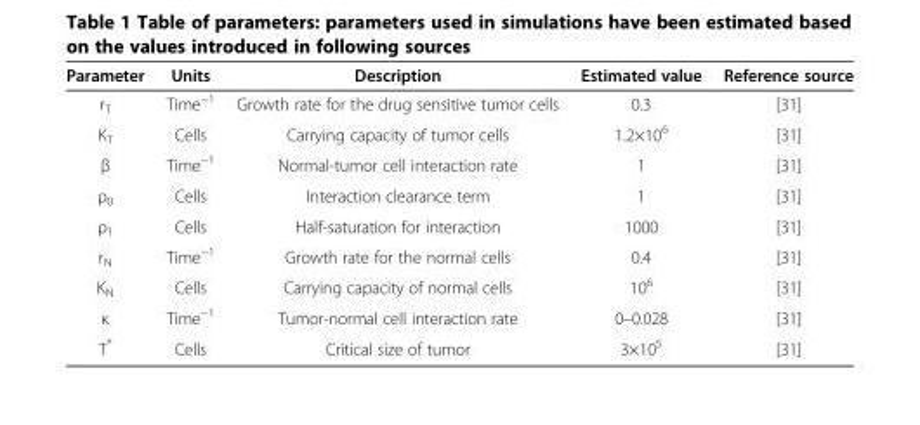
<table><thead><tr><td>Parameter</td><td>Units</td><td>Description</td><td>Estimated value</td><td>Reference source</td></tr></thead><tbody><tr><td>r<sub>T</sub></td><td>Time<sup>−1</sup></td><td>Growth rate for the drug sensitive tumor cells</td><td>0.3</td><td>[31]</td></tr><tr><td>K<sub>T</sub></td><td>Cells</td><td>Carrying capacity of tumor cells</td><td>1.2×10<sup>6</sup></td><td>[31]</td></tr><tr><td>β</td><td>Time<sup>−1</sup></td><td>Normal-tumor cell interaction rate</td><td>1</td><td>[31]</td></tr><tr><td>ρ<sub>0</sub></td><td>Cells</td><td>Interaction clearance term</td><td>1</td><td>[31]</td></tr><tr><td>ρ<sub>1</sub></td><td>Cells</td><td>Half-saturation for interaction</td><td>1000</td><td>[31]</td></tr><tr><td>r<sub>N</sub></td><td>Time<sup>−1</sup></td><td>Growth rate for the normal cells</td><td>0.4</td><td>[31]</td></tr><tr><td>K<sub>N</sub></td><td>Cells</td><td>Carrying capacity of normal cells</td><td>10<sup>6</sup></td><td>[31]</td></tr><tr><td>κ</td><td>Time<sup>−1</sup></td><td>Tumor-normal cell interaction rate</td><td>0–0.028</td><td>[31]</td></tr><tr><td>T*</td><td>Cells</td><td>Critical size of tumor</td><td>3×10<sup>5</sup></td><td>[31]</td></tr></tbody></table>